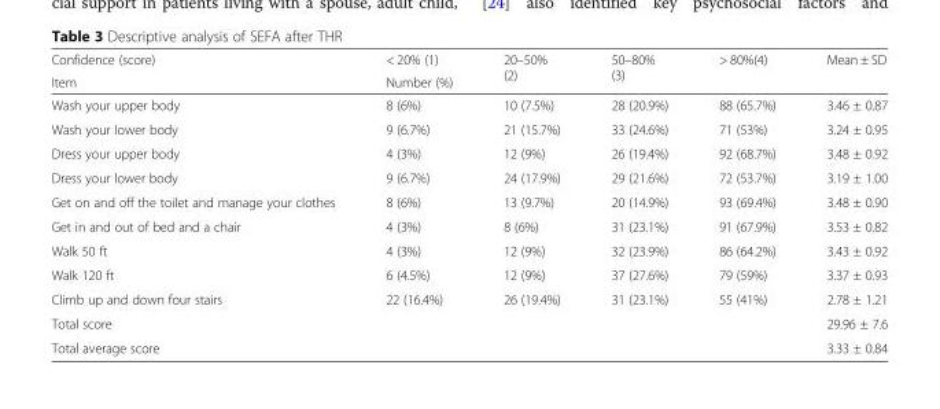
<table><thead><tr><td rowspan="2">Confidence (score) Item</td><td rowspan="2">&lt; 20% (1) Number (%)</td><td rowspan="2">20–50% (2)</td><td rowspan="2">50–80% (3)</td><td rowspan="2">&gt; 80%(4)</td><td rowspan="2">Mean ± SD</td></tr><tr></tr></thead><tbody><tr><td>Wash your upper body</td><td>8 (6%)</td><td>10 (7.5%)</td><td>28 (20.9%)</td><td>88 (65.7%)</td><td>3.46 ± 0.87</td></tr><tr><td>Wash your lower body</td><td>9 (6.7%)</td><td>21 (15.7%)</td><td>33 (24.6%)</td><td>71 (53%)</td><td>3.24 ± 0.95</td></tr><tr><td>Dress your upper body</td><td>4 (3%)</td><td>12 (9%)</td><td>26 (19.4%)</td><td>92 (68.7%)</td><td>3.48 ± 0.92</td></tr><tr><td>Dress your lower body</td><td>9 (6.7%)</td><td>24 (17.9%)</td><td>29 (21.6%)</td><td>72 (53.7%)</td><td>3.19 ± 1.00</td></tr><tr><td>Get on and off the toilet and manage your clothes</td><td>8 (6%)</td><td>13 (9.7%)</td><td>20 (14.9%)</td><td>93 (69.4%)</td><td>3.48 ± 0.90</td></tr><tr><td>Get in and out of bed and a chair</td><td>4 (3%)</td><td>8 (6%)</td><td>31 (23.1%)</td><td>91 (67.9%)</td><td>3.53 ± 0.82</td></tr><tr><td>Walk 50 ft</td><td>4 (3%)</td><td>12 (9%)</td><td>32 (23.9%)</td><td>86 (64.2%)</td><td>3.43 ± 0.92</td></tr><tr><td>Walk 120 ft</td><td>6 (4.5%)</td><td>12 (9%)</td><td>37 (27.6%)</td><td>79 (59%)</td><td>3.37 ± 0.93</td></tr><tr><td>Climb up and down four stairs</td><td>22 (16.4%)</td><td>26 (19.4%)</td><td>31 (23.1%)</td><td>55 (41%)</td><td>2.78 ± 1.21</td></tr><tr><td>Total score</td><td rowspan="2" colspan="4"></td><td>29.96 ± 7.6</td></tr><tr><td>Total average score</td><td>3.33 ± 0.84</td></tr></tbody></table>